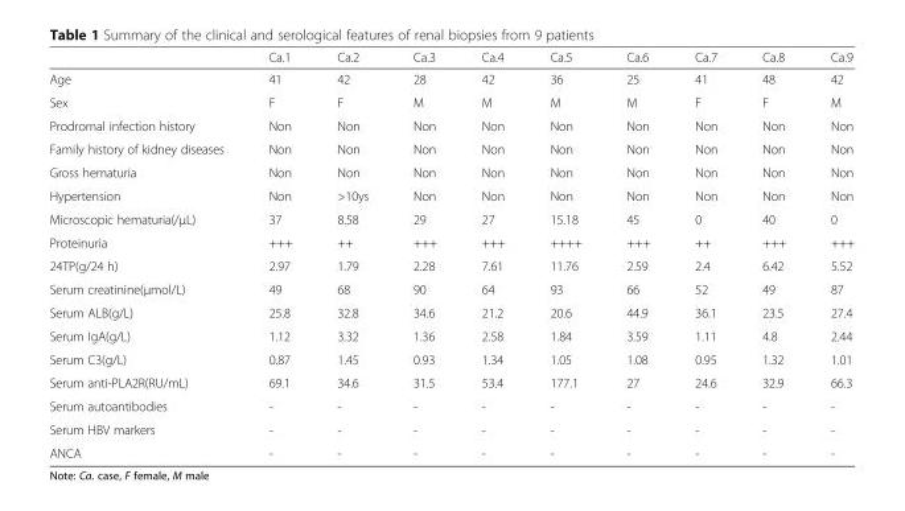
<table><thead><tr><td></td><td>Ca.1</td><td>Ca.2</td><td>Ca.3</td><td>Ca.4</td><td>Ca.5</td><td>Ca.6</td><td>Ca.7</td><td>Ca.8</td><td>Ca.9</td></tr></thead><tbody><tr><td>Age</td><td>41</td><td>42</td><td>28</td><td>42</td><td>36</td><td>25</td><td>41</td><td>48</td><td>42</td></tr><tr><td>Sex</td><td>F</td><td>F</td><td>M</td><td>M</td><td>M</td><td>M</td><td>F</td><td>F</td><td>M</td></tr><tr><td>Prodromal infection history</td><td>Non</td><td>Non</td><td>Non</td><td>Non</td><td>Non</td><td>Non</td><td>Non</td><td>Non</td><td>Non</td></tr><tr><td>Family history of kidney diseases</td><td>Non</td><td>Non</td><td>Non</td><td>Non</td><td>Non</td><td>Non</td><td>Non</td><td>Non</td><td>Non</td></tr><tr><td>Gross hematuria</td><td>Non</td><td>Non</td><td>Non</td><td>Non</td><td>Non</td><td>Non</td><td>Non</td><td>Non</td><td>Non</td></tr><tr><td>Hypertension</td><td>Non</td><td>&gt;10ys</td><td>Non</td><td>Non</td><td>Non</td><td>Non</td><td>Non</td><td>Non</td><td>Non</td></tr><tr><td>Microscopic hematuria(/μL)</td><td>37</td><td>8.58</td><td>29</td><td>27</td><td>15.18</td><td>45</td><td>0</td><td>40</td><td>0</td></tr><tr><td>Proteinuria</td><td>+++</td><td>++</td><td>+++</td><td>+++</td><td>++++</td><td>+++</td><td>++</td><td>+++</td><td>+++</td></tr><tr><td>24TP(g/24 h)</td><td>2.97</td><td>1.79</td><td>2.28</td><td>7.61</td><td>11.76</td><td>2.59</td><td>2.4</td><td>6.42</td><td>5.52</td></tr><tr><td>Serum creatinine(μmol/L)</td><td>49</td><td>68</td><td>90</td><td>64</td><td>93</td><td>66</td><td>52</td><td>49</td><td>87</td></tr><tr><td>Serum ALB(g/L)</td><td>25.8</td><td>32.8</td><td>34.6</td><td>21.2</td><td>20.6</td><td>44.9</td><td>36.1</td><td>23.5</td><td>27.4</td></tr><tr><td>Serum IgA(g/L)</td><td>1.12</td><td>3.32</td><td>1.36</td><td>2.58</td><td>1.84</td><td>3.59</td><td>1.11</td><td>4.8</td><td>2.44</td></tr><tr><td>Serum C3(g/L)</td><td>0.87</td><td>1.45</td><td>0.93</td><td>1.34</td><td>1.05</td><td>1.08</td><td>0.95</td><td>1.32</td><td>1.01</td></tr><tr><td>Serum anti-PLA2R(RU/mL)</td><td>69.1</td><td>34.6</td><td>31.5</td><td>53.4</td><td>177.1</td><td>27</td><td>24.6</td><td>32.9</td><td>66.3</td></tr><tr><td>Serum autoantibodies</td><td>-</td><td>-</td><td>-</td><td>-</td><td>-</td><td>-</td><td>-</td><td>-</td><td>-</td></tr><tr><td>Serum HBV markers</td><td>-</td><td>-</td><td>-</td><td>-</td><td>-</td><td>-</td><td>-</td><td>-</td><td>-</td></tr><tr><td>ANCA</td><td>-</td><td>-</td><td>-</td><td>-</td><td>-</td><td>-</td><td>-</td><td>-</td><td>-</td></tr></tbody></table>